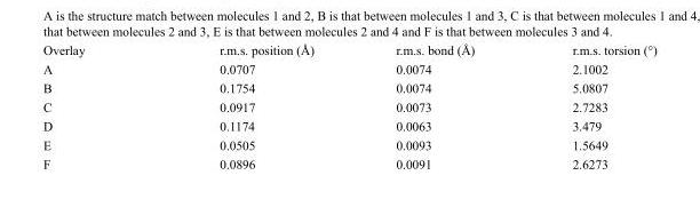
<table><tbody><tr><td>Overlay</td><td>r.m.s. position (Å)</td><td>r.m.s. bond (Å)</td><td>r.m.s. torsion (°)</td></tr><tr><td>A</td><td>0.0707</td><td>0.0074</td><td>2.1002</td></tr><tr><td>B</td><td>0.1754</td><td>0.0074</td><td>5.0807</td></tr><tr><td>C</td><td>0.0917</td><td>0.0073</td><td>2.7283</td></tr><tr><td>D</td><td>0.1174</td><td>0.0063</td><td>3.479</td></tr><tr><td>E</td><td>0.0505</td><td>0.0093</td><td>1.5649</td></tr><tr><td>F</td><td>0.0896</td><td>0.0091</td><td>2.6273</td></tr></tbody></table>